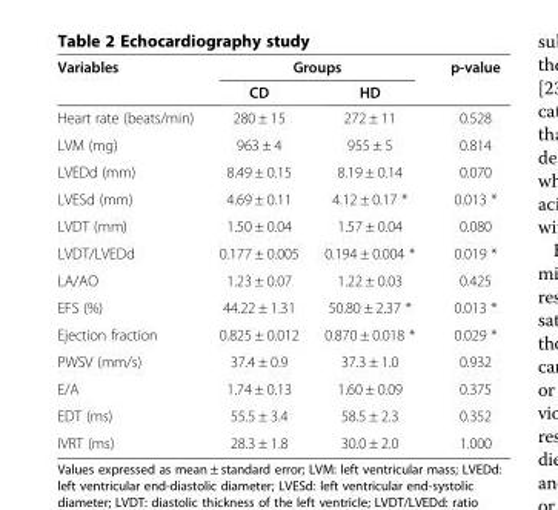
<table><thead><tr><td rowspan="2">Variables</td><td colspan="2">Groups</td><td rowspan="2">p-value</td></tr><tr><td>CD</td><td>HD</td></tr></thead><tbody><tr><td>Heart rate (beats/min)</td><td>280 ± 15</td><td>272 ± 11</td><td>0.528</td></tr><tr><td>LVM (mg)</td><td>963 ± 4</td><td>955 ± 5</td><td>0.814</td></tr><tr><td>LVEDd (mm)</td><td>8.49 ± 0.15</td><td>8.19 ± 0.14</td><td>0.070</td></tr><tr><td>LVESd (mm)</td><td>4.69 ± 0.11</td><td>4.12 ± 0.17 *</td><td>0.013 *</td></tr><tr><td>LVDT (mm)</td><td>1.50 ± 0.04</td><td>1.57 ± 0.04</td><td>0.080</td></tr><tr><td>LVDT/LVEDd</td><td>0.177 ± 0.005</td><td>0.194 ± 0.004 *</td><td>0.019 *</td></tr><tr><td>LA/AO</td><td>1.23 ± 0.07</td><td>1.22 ± 0.03</td><td>0.425</td></tr><tr><td>EFS (%)</td><td>44.22 ± 1.31</td><td>50.80 ± 2.37 *</td><td>0.013 *</td></tr><tr><td>Ejection fraction</td><td>0.825 ± 0.012</td><td>0.870 ± 0.018 *</td><td>0.029 *</td></tr><tr><td>PWSV (mm/s)</td><td>37.4 ± 0.9</td><td>37.3 ± 1.0</td><td>0.932</td></tr><tr><td>E/A</td><td>1.74 ± 0.13</td><td>1.60 ± 0.09</td><td>0.375</td></tr><tr><td>EDT (ms)</td><td>55.5 ± 3.4</td><td>58.5 ± 2.3</td><td>0.352</td></tr><tr><td>IVRT (ms)</td><td>28.3 ± 1.8</td><td>30.0 ± 2.0</td><td>1.000</td></tr></tbody></table>